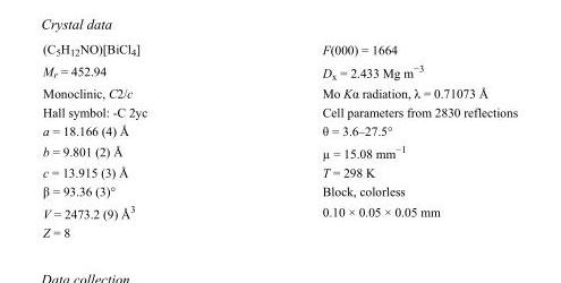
<table><tbody><tr><td>(C<sub>5</sub>H<sub>12</sub>NO)[BiCl<sub>4</sub>]</td><td>F(000) = 1664</td></tr><tr><td>M<sub>r</sub> = 452.94</td><td>D<sub>x</sub> = 2.433 Mg m<sup>−3</sup></td></tr><tr><td>Monoclinic, C2/c</td><td>Mo Kα radiation, λ = 0.71073 Å</td></tr><tr><td>Hall symbol: -C 2yc</td><td>Cell parameters from 2830 reflections</td></tr><tr><td>a = 18.166 (4) Å</td><td>θ = 3.6–27.5°</td></tr><tr><td>b = 9.801 (2) Å</td><td>µ = 15.08 mm<sup>−1</sup></td></tr><tr><td>c = 13.915 (3) Å</td><td>T = 298 K</td></tr><tr><td>β = 93.36 (3)°</td><td>Block, colorless</td></tr><tr><td>V = 2473.2 (9) Å<sup>3</sup></td><td>0.10 × 0.05 × 0.05 mm</td></tr><tr><td>Z = 8</td><td></td></tr></tbody></table>